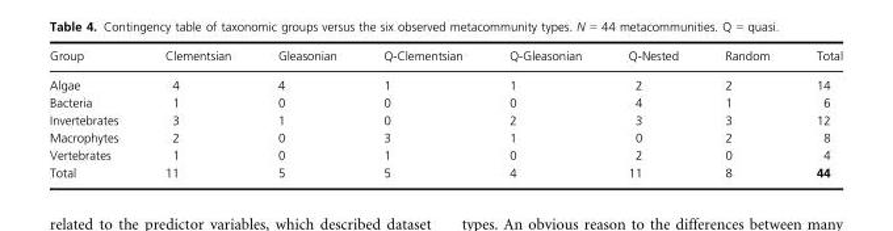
<table><thead><tr><td>Group</td><td>Clementsian</td><td>Gleasonian</td><td>Q-Clementsian</td><td>Q-Gleasonian</td><td>Q-Nested</td><td>Random</td><td>Total</td></tr></thead><tbody><tr><td>Algae</td><td>4</td><td>4</td><td>1</td><td>1</td><td>2</td><td>2</td><td>14</td></tr><tr><td>Bacteria</td><td>1</td><td>0</td><td>0</td><td>0</td><td>4</td><td>1</td><td>6</td></tr><tr><td>Invertebrates</td><td>3</td><td>1</td><td>0</td><td>2</td><td>3</td><td>3</td><td>12</td></tr><tr><td>Macrophytes</td><td>2</td><td>0</td><td>3</td><td>1</td><td>0</td><td>2</td><td>8</td></tr><tr><td>Vertebrates</td><td>1</td><td>0</td><td>1</td><td>0</td><td>2</td><td>0</td><td>4</td></tr><tr><td>Total</td><td>11</td><td>5</td><td>5</td><td>4</td><td>11</td><td>8</td><td>44</td></tr></tbody></table>